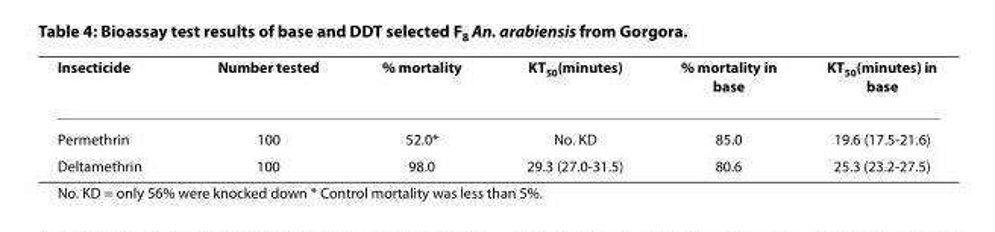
<table><thead><tr><td>Insecticide</td><td>Number tested</td><td>% mortality</td><td>KT<sub>50</sub>(minutes)</td><td>% mortality in base</td><td>KT<sub>50</sub>(minutes) in base</td></tr></thead><tbody><tr><td>Permethrin</td><td>100</td><td>52.0*</td><td>No. KD</td><td>85.0</td><td>19.6 (17.5-21.6)</td></tr><tr><td>Deltamethrin</td><td>100</td><td>98.0</td><td>29.3 (27.0-31.5)</td><td>80.6</td><td>25.3 (23.2-27.5)</td></tr></tbody></table>